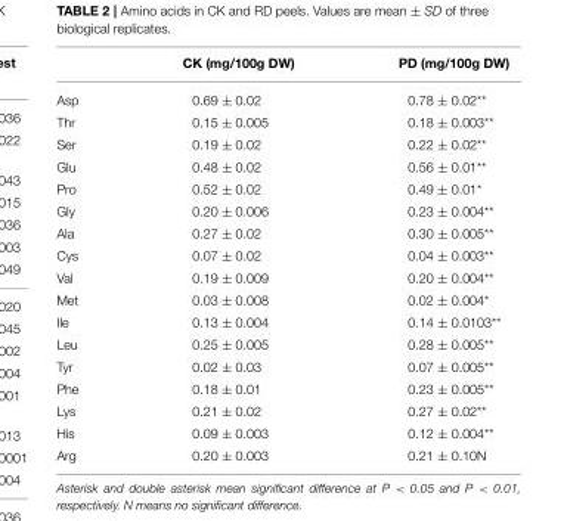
<table><thead><tr><td></td><td>CK (mg/100g DW)</td><td>PD (mg/100g DW)</td></tr></thead><tbody><tr><td>Asp</td><td>0.69 ± 0.02</td><td>0.78 ± 0.02**</td></tr><tr><td>Thr</td><td>0.15 ± 0.005</td><td>0.18 ± 0.003**</td></tr><tr><td>Ser</td><td>0.19 ± 0.02</td><td>0.22 ± 0.02**</td></tr><tr><td>Glu</td><td>0.48 ± 0.02</td><td>0.56 ± 0.01**</td></tr><tr><td>Pro</td><td>0.52 ± 0.02</td><td>0.49 ± 0.01*</td></tr><tr><td>Gly</td><td>0.20 ± 0.006</td><td>0.23 ± 0.004**</td></tr><tr><td>Ala</td><td>0.27 ± 0.02</td><td>0.30 ± 0.005**</td></tr><tr><td>Cys</td><td>0.07 ± 0.02</td><td>0.04 ± 0.003**</td></tr><tr><td>Val</td><td>0.19 ± 0.009</td><td>0.20 ± 0.004**</td></tr><tr><td>Met</td><td>0.03 ± 0.008</td><td>0.02 ± 0.004*</td></tr><tr><td>Ile</td><td>0.13 ± 0.004</td><td>0.14 ± 0.0103**</td></tr><tr><td>Leu</td><td>0.25 ± 0.005</td><td>0.28 ± 0.005**</td></tr><tr><td>Tyr</td><td>0.02 ± 0.03</td><td>0.07 ± 0.005**</td></tr><tr><td>Phe</td><td>0.18 ± 0.01</td><td>0.23 ± 0.005**</td></tr><tr><td>Lys</td><td>0.21 ± 0.02</td><td>0.27 ± 0.02**</td></tr><tr><td>His</td><td>0.09 ± 0.003</td><td>0.12 ± 0.004**</td></tr><tr><td>Arg</td><td>0.20 ± 0.003</td><td>0.21 ± 0.10N</td></tr></tbody></table>